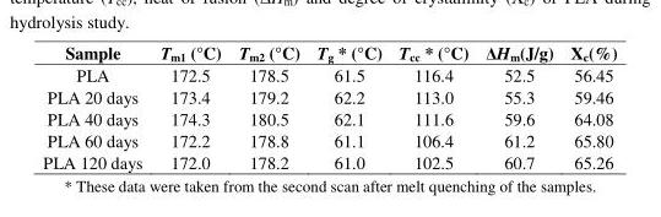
<table><thead><tr><td>Sample</td><td>Τm1 (°C)</td><td>Τm2 (°C)</td><td>T<sub>g</sub> * (°C)</td><td>T<sub>cc</sub> * (°C)</td><td>∆Hm(J/g)</td><td>X<sub>c</sub>(%)</td></tr></thead><tbody><tr><td>PLA</td><td>172.5</td><td>178.5</td><td>61.5</td><td>116.4</td><td>52.5</td><td>56.45</td></tr><tr><td>PLA 20 days</td><td>173.4</td><td>179.2</td><td>62.2</td><td>113.0</td><td>55.3</td><td>59.46</td></tr><tr><td>PLA 40 days</td><td>174.3</td><td>180.5</td><td>62.1</td><td>111.6</td><td>59.6</td><td>64.08</td></tr><tr><td>PLA 60 days</td><td>172.2</td><td>178.8</td><td>61.1</td><td>106.4</td><td>61.2</td><td>65.80</td></tr><tr><td>PLA 120 days</td><td>172.0</td><td>178.2</td><td>61.0</td><td>102.5</td><td>60.7</td><td>65.26</td></tr></tbody></table>